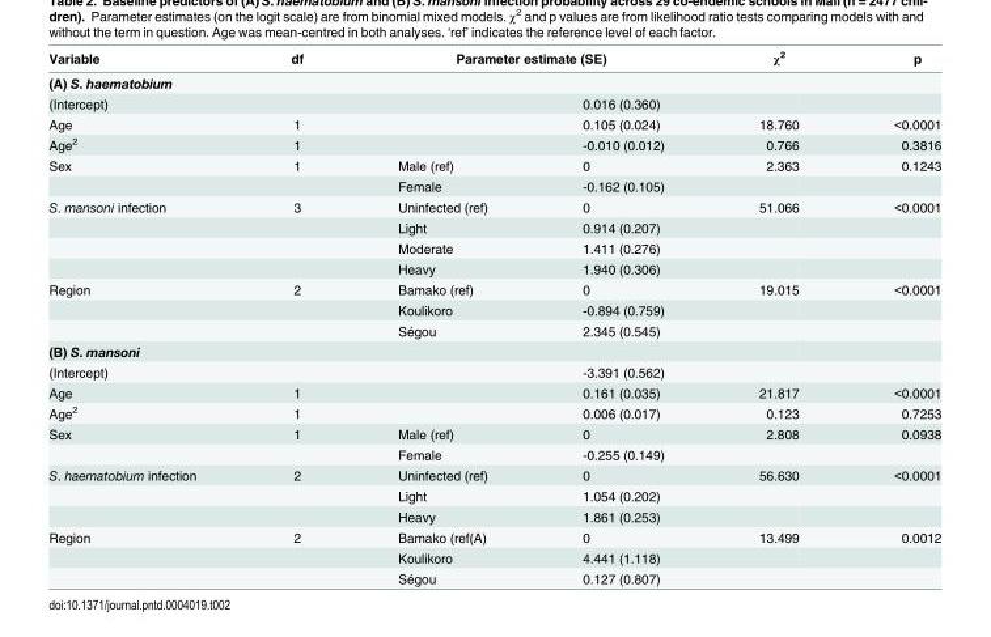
<table><thead><tr><td rowspan="2">Variable (A) S. haematobium</td><td rowspan="2">df</td><td colspan="2">Parameter estimate (SE)</td><td rowspan="2">χ<sup>2</sup></td><td rowspan="2">p</td></tr><tr><td></td><td></td></tr></thead><tbody><tr><td>(Intercept)</td><td></td><td></td><td>0.016 (0.360)</td><td></td><td></td></tr><tr><td>Age</td><td>1</td><td></td><td>0.105 (0.024)</td><td>18.760</td><td>&lt;0.0001</td></tr><tr><td>Age<sup>2</sup></td><td>1</td><td></td><td>-0.010 (0.012)</td><td>0.766</td><td>0.3816</td></tr><tr><td rowspan="2">Sex</td><td>1</td><td>Male (ref)</td><td>0</td><td>2.363</td><td>0.1243</td></tr><tr><td></td><td>Female</td><td>-0.162 (0.105)</td><td></td><td></td></tr><tr><td rowspan="4">S. mansoni infection</td><td>3</td><td>Uninfected (ref)</td><td>0</td><td>51.066</td><td>&lt;0.0001</td></tr><tr><td></td><td>Light</td><td>0.914 (0.207)</td><td></td><td></td></tr><tr><td></td><td>Moderate</td><td>1.411 (0.276)</td><td></td><td></td></tr><tr><td></td><td>Heavy</td><td>1.940 (0.306)</td><td></td><td></td></tr><tr><td rowspan="3">Region</td><td>2</td><td>Bamako (ref)</td><td>0</td><td>19.015</td><td>&lt;0.0001</td></tr><tr><td></td><td>Koulikoro</td><td>-0.894 (0.759)</td><td></td><td></td></tr><tr><td></td><td>Ségou</td><td>2.345 (0.545)</td><td></td><td></td></tr><tr><td colspan="6">(B) S. mansoni</td></tr><tr><td>(Intercept)</td><td></td><td></td><td>-3.391 (0.562)</td><td></td><td></td></tr><tr><td>Age</td><td>1</td><td></td><td>0.161 (0.035)</td><td>21.817</td><td>&lt;0.0001</td></tr><tr><td>Age<sup>2</sup></td><td>1</td><td></td><td>0.006 (0.017)</td><td>0.123</td><td>0.7253</td></tr><tr><td rowspan="2">Sex</td><td>1</td><td>Male (ref)</td><td>0</td><td>2.808</td><td>0.0938</td></tr><tr><td></td><td>Female</td><td>-0.255 (0.149)</td><td></td><td></td></tr><tr><td rowspan="3">S. haematobium infection</td><td>2</td><td>Uninfected (ref)</td><td>0</td><td>56.630</td><td>&lt;0.0001</td></tr><tr><td></td><td>Light</td><td>1.054 (0.202)</td><td></td><td></td></tr><tr><td></td><td>Heavy</td><td>1.861 (0.253)</td><td></td><td></td></tr><tr><td rowspan="3">Region</td><td>2</td><td>Bamako (ref(A)</td><td>0</td><td>13.499</td><td>0.0012</td></tr><tr><td></td><td>Koulikoro</td><td>4.441 (1.118)</td><td></td><td></td></tr><tr><td></td><td>Ségou</td><td>0.127 (0.807)</td><td></td><td></td></tr></tbody></table>